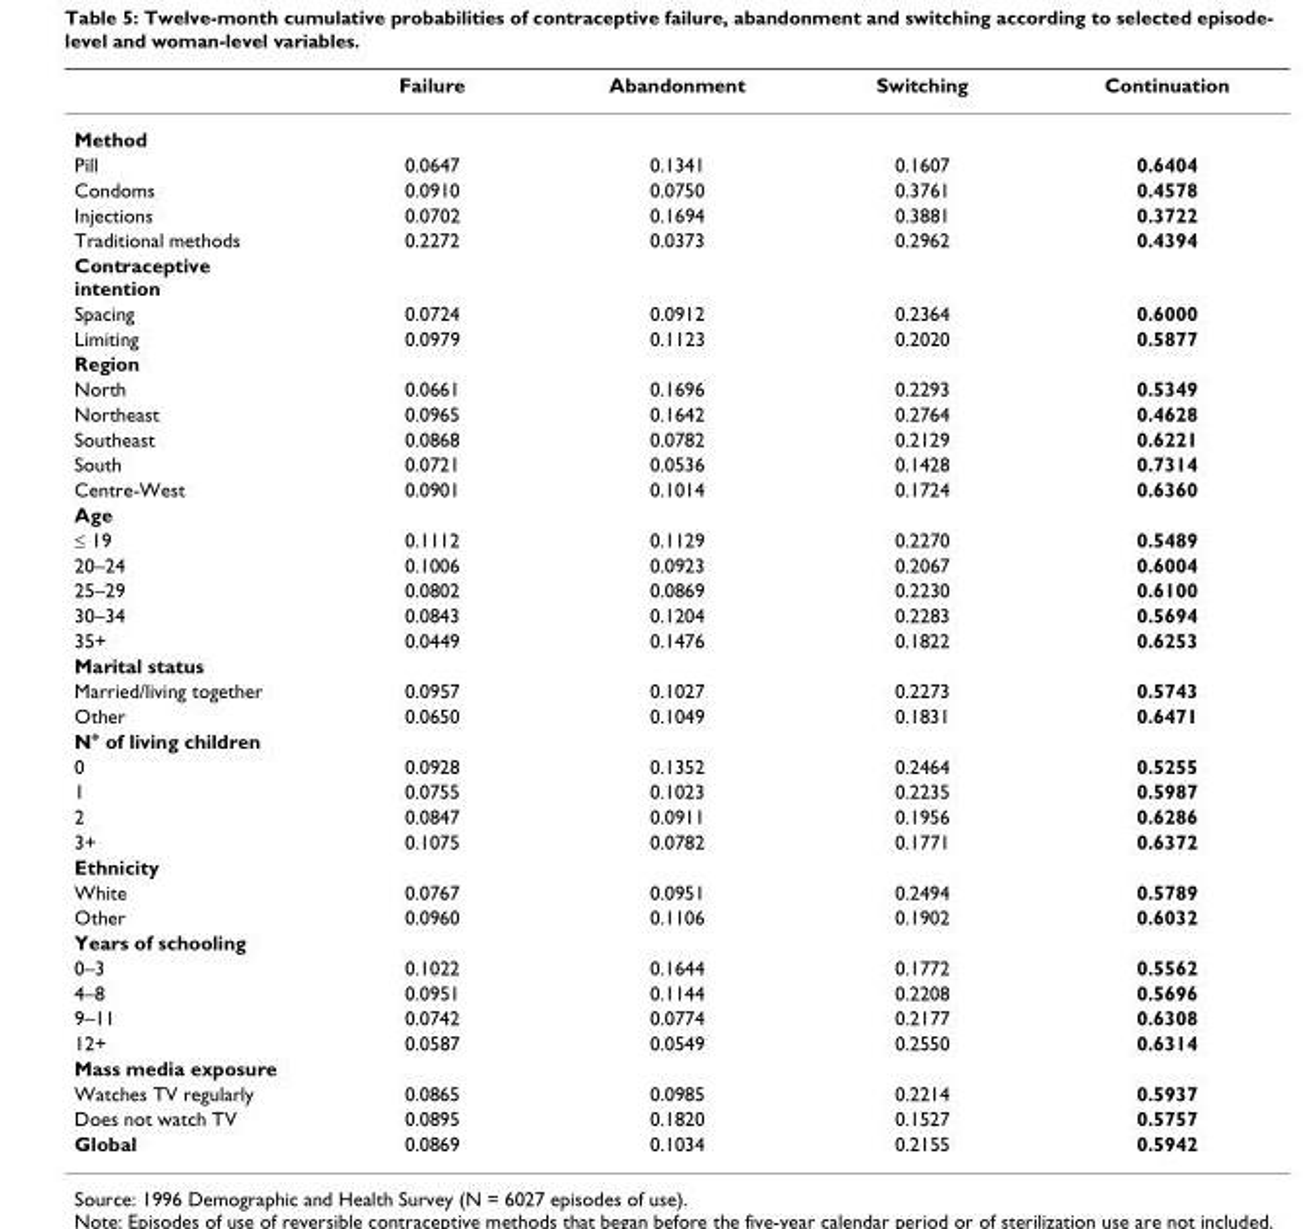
<table><thead><tr><td></td><td>Failure</td><td>Abandonment</td><td>Switching</td><td>Continuation</td></tr></thead><tbody><tr><td colspan="5">Method</td></tr><tr><td>Pill</td><td>0.0647</td><td>0.1341</td><td>0.1607</td><td>0.6404</td></tr><tr><td>Condoms</td><td>0.0910</td><td>0.0750</td><td>0.3761</td><td>0.4578</td></tr><tr><td>Injections</td><td>0.0702</td><td>0.1694</td><td>0.3881</td><td>0.3722</td></tr><tr><td>Traditional methods</td><td>0.2272</td><td>0.0373</td><td>0.2962</td><td>0.4394</td></tr><tr><td colspan="5">Contraceptive intention</td></tr><tr><td>Spacing</td><td>0.0724</td><td>0.0912</td><td>0.2364</td><td>0.6000</td></tr><tr><td>Limiting</td><td>0.0979</td><td>0.1123</td><td>0.2020</td><td>0.5877</td></tr><tr><td colspan="5">Region</td></tr><tr><td>North</td><td>0.0661</td><td>0.1696</td><td>0.2293</td><td>0.5349</td></tr><tr><td>Northeast</td><td>0.0965</td><td>0.1642</td><td>0.2764</td><td>0.4628</td></tr><tr><td>Southeast</td><td>0.0868</td><td>0.0782</td><td>0.2129</td><td>0.6221</td></tr><tr><td>South</td><td>0.0721</td><td>0.0536</td><td>0.1428</td><td>0.7314</td></tr><tr><td>Centre-West</td><td>0.0901</td><td>0.1014</td><td>0.1724</td><td>0.6360</td></tr><tr><td colspan="5">Age</td></tr><tr><td>≤ 19</td><td>0.1112</td><td>0.1129</td><td>0.2270</td><td>0.5489</td></tr><tr><td>20–24</td><td>0.1006</td><td>0.0923</td><td>0.2067</td><td>0.6004</td></tr><tr><td>25–29</td><td>0.0802</td><td>0.0869</td><td>0.2230</td><td>0.6100</td></tr><tr><td>30–34</td><td>0.0843</td><td>0.1204</td><td>0.2283</td><td>0.5694</td></tr><tr><td>35+</td><td>0.0449</td><td>0.1476</td><td>0.1822</td><td>0.6253</td></tr><tr><td colspan="5">Marital status</td></tr><tr><td>Married/living together</td><td>0.0957</td><td>0.1027</td><td>0.2273</td><td>0.5743</td></tr><tr><td>Other</td><td>0.0650</td><td>0.1049</td><td>0.1831</td><td>0.6471</td></tr><tr><td colspan="5">N° of living children</td></tr><tr><td>0</td><td>0.0928</td><td>0.1352</td><td>0.2464</td><td>0.5255</td></tr><tr><td>1</td><td>0.0755</td><td>0.1023</td><td>0.2235</td><td>0.5987</td></tr><tr><td>2</td><td>0.0847</td><td>0.0911</td><td>0.1956</td><td>0.6286</td></tr><tr><td>3+</td><td>0.1075</td><td>0.0782</td><td>0.1771</td><td>0.6372</td></tr><tr><td colspan="5">Ethnicity</td></tr><tr><td>White</td><td>0.0767</td><td>0.0951</td><td>0.2494</td><td>0.5789</td></tr><tr><td>Other</td><td>0.0960</td><td>0.1106</td><td>0.1902</td><td>0.6032</td></tr><tr><td colspan="5">Years of schooling</td></tr><tr><td>0–3</td><td>0.1022</td><td>0.1644</td><td>0.1772</td><td>0.5562</td></tr><tr><td>4–8</td><td>0.0951</td><td>0.1144</td><td>0.2208</td><td>0.5696</td></tr><tr><td>9–11</td><td>0.0742</td><td>0.0774</td><td>0.2177</td><td>0.6308</td></tr><tr><td>12+</td><td>0.0587</td><td>0.0549</td><td>0.2550</td><td>0.6314</td></tr><tr><td colspan="5">Mass media exposure</td></tr><tr><td>Watches TV regularly</td><td>0.0865</td><td>0.0985</td><td>0.2214</td><td>0.5937</td></tr><tr><td>Does not watch TV</td><td>0.0895</td><td>0.1820</td><td>0.1527</td><td>0.5757</td></tr><tr><td>Global</td><td>0.0869</td><td>0.1034</td><td>0.2155</td><td>0.5942</td></tr></tbody></table>